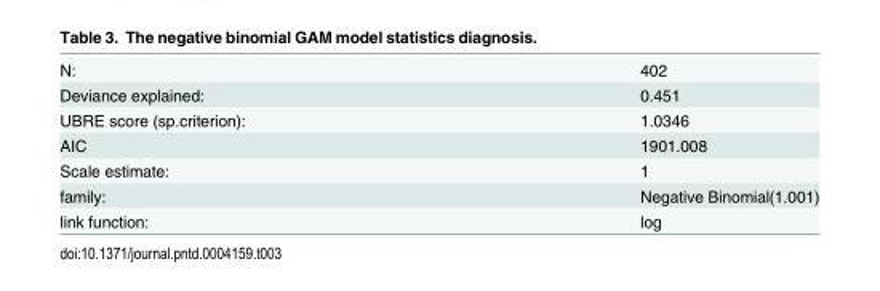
<table><tbody><tr><td>N:</td><td>402</td></tr><tr><td>Deviance explained:</td><td>0.451</td></tr><tr><td>UBRE score (sp.criterion):</td><td>1.0346</td></tr><tr><td>AIC</td><td>1901.008</td></tr><tr><td>Scale estimate:</td><td>1</td></tr><tr><td>family:</td><td>Negative Binomial(1.001)</td></tr><tr><td>link function:</td><td>log</td></tr></tbody></table>